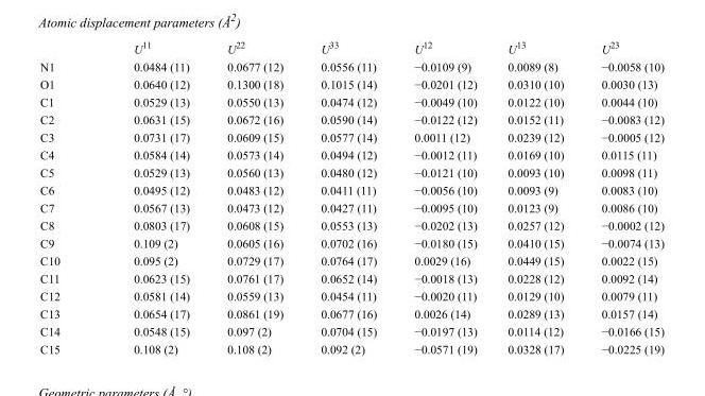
<table><thead><tr><td></td><td>U<sup>11</sup></td><td>U<sup>22</sup></td><td>U<sup>33</sup></td><td>U<sup>12</sup></td><td>U<sup>13</sup></td><td>U<sup>23</sup></td></tr></thead><tbody><tr><td>N1</td><td>0.0484 (11)</td><td>0.0677 (12)</td><td>0.0556 (11)</td><td>−0.0109 (9)</td><td>0.0089 (8)</td><td>−0.0058 (10)</td></tr><tr><td>O1</td><td>0.0640 (12)</td><td>0.1300 (18)</td><td>0.1015 (14)</td><td>−0.0201 (12)</td><td>0.0310 (10)</td><td>0.0030 (13)</td></tr><tr><td>C1</td><td>0.0529 (13)</td><td>0.0550 (13)</td><td>0.0474 (12)</td><td>−0.0049 (10)</td><td>0.0122 (10)</td><td>0.0044 (10)</td></tr><tr><td>C2</td><td>0.0631 (15)</td><td>0.0672 (16)</td><td>0.0590 (14)</td><td>−0.0122 (12)</td><td>0.0152 (11)</td><td>−0.0083 (12)</td></tr><tr><td>C3</td><td>0.0731 (17)</td><td>0.0609 (15)</td><td>0.0577 (14)</td><td>0.0011 (12)</td><td>0.0239 (12)</td><td>−0.0005 (12)</td></tr><tr><td>C4</td><td>0.0584 (14)</td><td>0.0573 (14)</td><td>0.0494 (12)</td><td>−0.0012 (11)</td><td>0.0169 (10)</td><td>0.0115 (11)</td></tr><tr><td>C5</td><td>0.0529 (13)</td><td>0.0560 (13)</td><td>0.0480 (12)</td><td>−0.0121 (10)</td><td>0.0093 (10)</td><td>0.0098 (11)</td></tr><tr><td>C6</td><td>0.0495 (12)</td><td>0.0483 (12)</td><td>0.0411 (11)</td><td>−0.0056 (10)</td><td>0.0093 (9)</td><td>0.0083 (10)</td></tr><tr><td>C7</td><td>0.0567 (13)</td><td>0.0473 (12)</td><td>0.0427 (11)</td><td>−0.0095 (10)</td><td>0.0123 (9)</td><td>0.0086 (10)</td></tr><tr><td>C8</td><td>0.0803 (17)</td><td>0.0608 (15)</td><td>0.0553 (13)</td><td>−0.0202 (13)</td><td>0.0257 (12)</td><td>−0.0002 (12)</td></tr><tr><td>C9</td><td>0.109 (2)</td><td>0.0605 (16)</td><td>0.0702 (16)</td><td>−0.0180 (15)</td><td>0.0410 (15)</td><td>−0.0074 (13)</td></tr><tr><td>C10</td><td>0.095 (2)</td><td>0.0729 (17)</td><td>0.0764 (17)</td><td>0.0029 (16)</td><td>0.0449 (15)</td><td>0.0022 (15)</td></tr><tr><td>C11</td><td>0.0623 (15)</td><td>0.0761 (17)</td><td>0.0652 (14)</td><td>−0.0018 (13)</td><td>0.0228 (12)</td><td>0.0092 (14)</td></tr><tr><td>C12</td><td>0.0581 (14)</td><td>0.0559 (13)</td><td>0.0454 (11)</td><td>−0.0020 (11)</td><td>0.0129 (10)</td><td>0.0079 (11)</td></tr><tr><td>C13</td><td>0.0654 (17)</td><td>0.0861 (19)</td><td>0.0677 (16)</td><td>0.0026 (14)</td><td>0.0289 (13)</td><td>0.0157 (14)</td></tr><tr><td>C14</td><td>0.0548 (15)</td><td>0.097 (2)</td><td>0.0704 (15)</td><td>−0.0197 (13)</td><td>0.0114 (12)</td><td>−0.0166 (15)</td></tr><tr><td>C15</td><td>0.108 (2)</td><td>0.108 (2)</td><td>0.092 (2)</td><td>−0.0571 (19)</td><td>0.0328 (17)</td><td>−0.0225 (19)</td></tr></tbody></table>